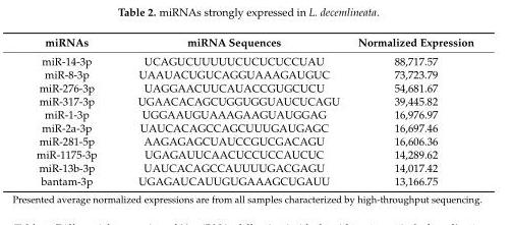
<table><thead><tr><td>miRNAs</td><td>miRNA Sequences</td><td>Normalized Expression</td></tr></thead><tbody><tr><td>miR-14-3p</td><td>UCAGUCUUUUUCUCUCUCCUAU</td><td>88,717.57</td></tr><tr><td>miR-8-3p</td><td>UAAUACUGUCAGGUAAAGAUGUC</td><td>73,723.79</td></tr><tr><td>miR-276-3p</td><td>UAGGAACUUCAUACCGUGCUCU</td><td>54,681.67</td></tr><tr><td>miR-317-3p</td><td>UGAACACAGCUGGUGGUAUCUCAGU</td><td>39,445.82</td></tr><tr><td>miR-1-3p</td><td>UGGAAUGUAAAGAAGUAUGGAG</td><td>16,976.97</td></tr><tr><td>miR-2a-3p</td><td>UAUCACAGCCAGCUUUGAUGAGC</td><td>16,697.46</td></tr><tr><td>miR-281-5p</td><td>AAGAGAGCUAUCCGUCGACAGU</td><td>16,606.36</td></tr><tr><td>miR-1175-3p</td><td>UGAGAUUCAACUCCUCCAUCUC</td><td>14,289.62</td></tr><tr><td>miR-13b-3p</td><td>UAUCACAGCCAUUUUGACGAGU</td><td>14,017.42</td></tr><tr><td>bantam-3p</td><td>UGAGAUCAUUGUGAAAGCUGAUU</td><td>13,166.75</td></tr></tbody></table>